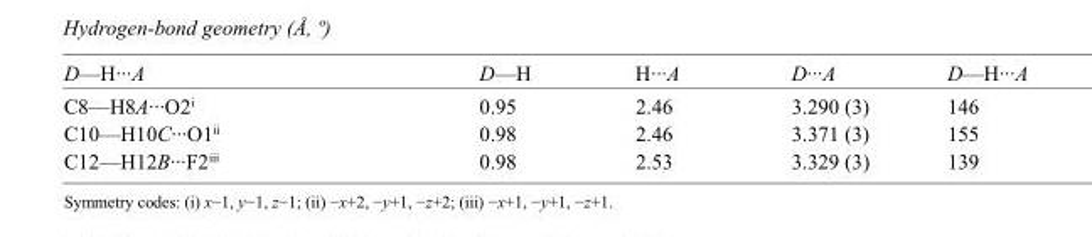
<table><tbody><tr><td>D—H···A</td><td>D—H</td><td>H···A</td><td>D···A</td><td>D—H···A</td></tr><tr><td>C8—H8A···O2<sup>i</sup></td><td>0.95</td><td>2.46</td><td>3.290 (3)</td><td>146</td></tr><tr><td>C10—H10C···O1<sup>ii</sup></td><td>0.98</td><td>2.46</td><td>3.371 (3)</td><td>155</td></tr><tr><td>C12—H12B···F2<sup>iii</sup></td><td>0.98</td><td>2.53</td><td>3.329 (3)</td><td>139</td></tr></tbody></table>